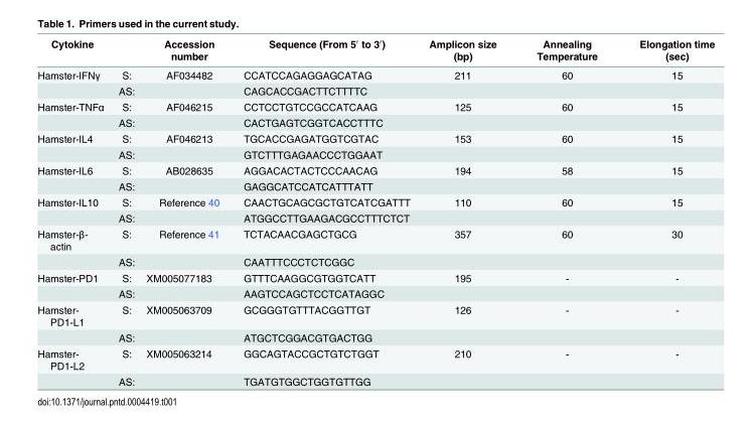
<table><thead><tr><td>Cytokine</td><td></td><td>Accession number</td><td>Sequence (From 5′ to 3′)</td><td>Amplicon size (bp)</td><td>Annealing Temperature</td><td>Elongation time (sec)</td></tr></thead><tbody><tr><td rowspan="2">Hamster-IFNγ</td><td>S:</td><td>AF034482</td><td>CCATCCAGAGGAGCATAG</td><td>211</td><td>60</td><td>15</td></tr><tr><td>AS:</td><td></td><td>CAGCACCGACTTCTTTTC</td><td></td><td></td><td></td></tr><tr><td rowspan="2">Hamster-TNFα</td><td>S:</td><td>AF046215</td><td>CCTCCTGTCCGCCATCAAG</td><td>125</td><td>60</td><td>15</td></tr><tr><td>AS:</td><td></td><td>CACTGAGTCGGTCACCTTTC</td><td></td><td></td><td></td></tr><tr><td rowspan="2">Hamster-IL4</td><td>S:</td><td>AF046213</td><td>TGCACCGAGATGGTCGTAC</td><td>153</td><td>60</td><td>15</td></tr><tr><td>AS:</td><td></td><td>GTCTTTGAGAACCCTGGAAT</td><td></td><td></td><td></td></tr><tr><td rowspan="2">Hamster-IL6</td><td>S:</td><td>AB028635</td><td>AGGACACTACTCCCAACAG</td><td>194</td><td>58</td><td>15</td></tr><tr><td>AS:</td><td></td><td>GAGGCATCCATCATTTATT</td><td></td><td></td><td></td></tr><tr><td rowspan="2">Hamster-IL10</td><td>S:</td><td>Reference 40</td><td>CAACTGCAGCGCTGTCATCGATTT</td><td>110</td><td>60</td><td>15</td></tr><tr><td>AS:</td><td></td><td>ATGGCCTTGAAGACGCCTTTCTCT</td><td></td><td></td><td></td></tr><tr><td rowspan="2">Hamster-β- actin</td><td>S:</td><td>Reference 41</td><td>TCTACAACGAGCTGCG</td><td>357</td><td>60</td><td>30</td></tr><tr><td>AS:</td><td></td><td>CAATTTCCCTCTCGGC</td><td></td><td></td><td></td></tr><tr><td rowspan="2">Hamster-PD1</td><td>S:</td><td>XM005077183</td><td>GTTTCAAGGCGTGGTCATT</td><td>195</td><td>-</td><td>-</td></tr><tr><td>AS:</td><td></td><td>AAGTCCAGCTCCTCATAGGC</td><td></td><td></td><td></td></tr><tr><td rowspan="2">Hamster- PD1-L1</td><td>S:</td><td>XM005063709</td><td>GCGGGTGTTTACGGTTGT</td><td>126</td><td>-</td><td>-</td></tr><tr><td>AS:</td><td></td><td>ATGCTCGGACGTGACTGG</td><td></td><td></td><td></td></tr><tr><td rowspan="2">Hamster- PD1-L2</td><td>S:</td><td>XM005063214</td><td>GGCAGTACCGCTGTCTGGT</td><td>210</td><td>-</td><td>-</td></tr><tr><td>AS:</td><td></td><td>TGATGTGGCTGGTGTTGG</td><td></td><td></td><td></td></tr></tbody></table>